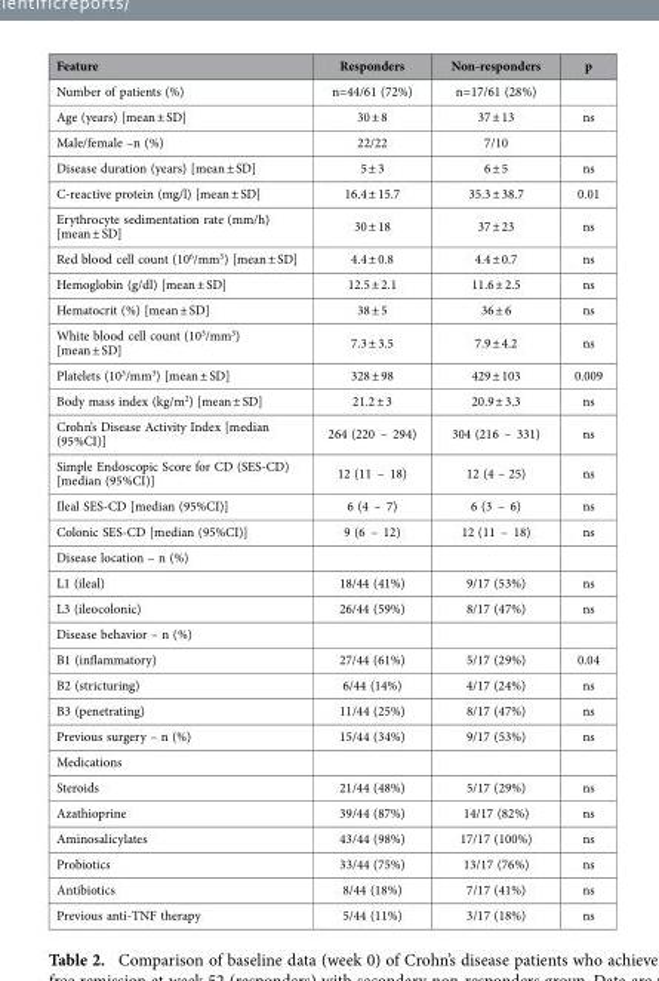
<table><thead><tr><td>Feature</td><td>Responders</td><td>Non-responders</td><td>p</td></tr></thead><tbody><tr><td>Number of patients (%)</td><td>n=44/61 (72%)</td><td>n=17/61 (28%)</td><td></td></tr><tr><td>Age (years) [mean ± SD]</td><td>30 ± 8</td><td>37 ± 13</td><td>ns</td></tr><tr><td>Male/female –n (%)</td><td>22/22</td><td>7/10</td><td></td></tr><tr><td>Disease duration (years) [mean ± SD]</td><td>5 ± 3</td><td>6 ± 5</td><td>ns</td></tr><tr><td>C-reactive protein (mg/l) [mean ± SD]</td><td>16.4 ± 15.7</td><td>35.3 ± 38.7</td><td>0.01</td></tr><tr><td>Erythrocyte sedimentation rate (mm/h) [mean ± SD]</td><td>30 ± 18</td><td>37 ± 23</td><td>ns</td></tr><tr><td>Red blood cell count (10<sup>6</sup>/mm<sup>3</sup>) [mean ± SD]</td><td>4.4 ± 0.8</td><td>4.4 ± 0.7</td><td>ns</td></tr><tr><td>Hemoglobin (g/dl) [mean ± SD]</td><td>12.5 ± 2.1</td><td>11.6 ± 2.5</td><td>ns</td></tr><tr><td>Hematocrit (%) [mean ± SD]</td><td>38 ± 5</td><td>36 ± 6</td><td>ns</td></tr><tr><td>White blood cell count (10<sup>3</sup>/mm<sup>3</sup>) [mean ± SD]</td><td>7.3 ± 3.5</td><td>7.9 ± 4.2</td><td>ns</td></tr><tr><td>Platelets (10<sup>3</sup>/mm<sup>3</sup>) [mean ± SD]</td><td>328 ± 98</td><td>429 ± 103</td><td>0.009</td></tr><tr><td>Body mass index (kg/m<sup>2</sup>) [mean ± SD]</td><td>21.2 ± 3</td><td>20.9 ± 3.3</td><td>ns</td></tr><tr><td>Crohn’s Disease Activity Index [median (95%CI)]</td><td>264 (220 – 294)</td><td>304 (216 – 331)</td><td>ns</td></tr><tr><td>Simple Endoscopic Score for CD (SES-CD) [median (95%CI)]</td><td>12 (11 – 18)</td><td>12 (4 – 25)</td><td>ns</td></tr><tr><td>Ileal SES-CD [median (95%CI)]</td><td>6 (4 – 7)</td><td>6 (3 – 6)</td><td>ns</td></tr><tr><td>Colonic SES-CD [median (95%CI)]</td><td>9 (6 – 12)</td><td>12 (11 – 18)</td><td>ns</td></tr><tr><td colspan="4">Disease location – n (%)</td></tr><tr><td>L1 (ileal)</td><td>18/44 (41%)</td><td>9/17 (53%)</td><td>ns</td></tr><tr><td>L3 (ileocolonic)</td><td>26/44 (59%)</td><td>8/17 (47%)</td><td>ns</td></tr><tr><td colspan="4">Disease behavior – n (%)</td></tr><tr><td>B1 (inflammatory)</td><td>27/44 (61%)</td><td>5/17 (29%)</td><td>0.04</td></tr><tr><td>B2 (stricturing)</td><td>6/44 (14%)</td><td>4/17 (24%)</td><td>ns</td></tr><tr><td>B3 (penetrating)</td><td>11/44 (25%)</td><td>8/17 (47%)</td><td>ns</td></tr><tr><td>Previous surgery – n (%)</td><td>15/44 (34%)</td><td>9/17 (53%)</td><td>ns</td></tr><tr><td colspan="4">Medications</td></tr><tr><td>Steroids</td><td>21/44 (48%)</td><td>5/17 (29%)</td><td>ns</td></tr><tr><td>Azathioprine</td><td>39/44 (87%)</td><td>14/17 (82%)</td><td>ns</td></tr><tr><td>Aminosalicylates</td><td>43/44 (98%)</td><td>17/17 (100%)</td><td>ns</td></tr><tr><td>Probiotics</td><td>33/44 (75%)</td><td>13/17 (76%)</td><td>ns</td></tr><tr><td>Antibiotics</td><td>8/44 (18%)</td><td>7/17 (41%)</td><td>ns</td></tr><tr><td>Previous anti-TNF therapy</td><td>5/44 (11%)</td><td>3/17 (18%)</td><td>ns</td></tr></tbody></table>